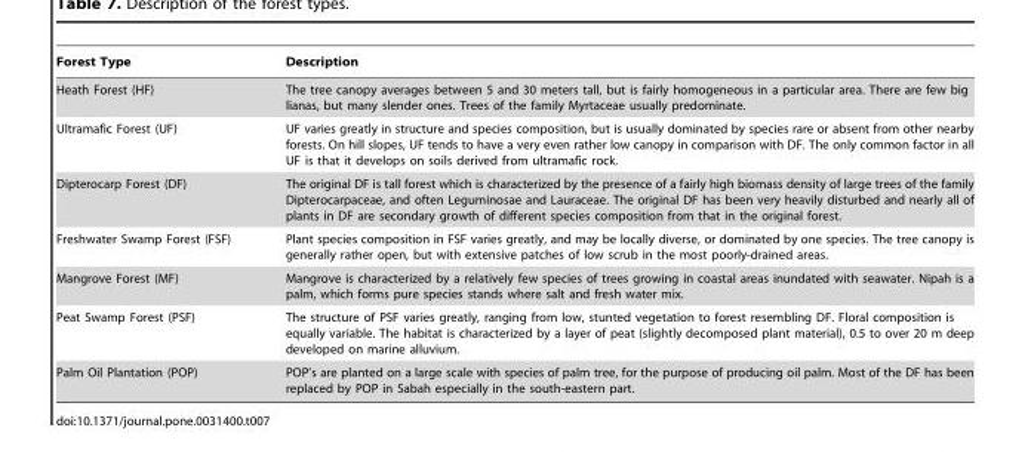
<table><thead><tr><td>Forest Type</td><td>Description</td></tr></thead><tbody><tr><td>Heath Forest (HF)</td><td>The tree canopy averages between 5 and 30 meters tall, but is fairly homogeneous in a particular area. There are few big lianas, but many slender ones. Trees of the family Myrtaceae usually predominate.</td></tr><tr><td>Ultramafic Forest (UF)</td><td>UF varies greatly in structure and species composition, but is usually dominated by species rare or absent from other nearby forests. On hill slopes, UF tends to have a very even rather low canopy in comparison with DF. The only common factor in all UF is that it develops on soils derived from ultramafic rock.</td></tr><tr><td>Dipterocarp Forest (DF)</td><td>The original DF is tall forest which is characterized by the presence of a fairly high biomass density of large trees of the family Dipterocarpaceae, and often Leguminosae and Lauraceae. The original DF has been very heavily disturbed and nearly all of plants in DF are secondary growth of different species composition from that in the original forest.</td></tr><tr><td>Freshwater Swamp Forest (FSF)</td><td>Plant species composition in FSF varies greatly, and may be locally diverse, or dominated by one species. The tree canopy is generally rather open, but with extensive patches of low scrub in the most poorly-drained areas.</td></tr><tr><td>Mangrove Forest (MF)</td><td>Mangrove is characterized by a relatively few species of trees growing in coastal areas inundated with seawater. Nipah is a palm, which forms pure species stands where salt and fresh water mix.</td></tr><tr><td>Peat Swamp Forest (PSF)</td><td>The structure of PSF varies greatly, ranging from low, stunted vegetation to forest resembling DF. Floral composition is equally variable. The habitat is characterized by a layer of peat (slightly decomposed plant material), 0.5 to over 20 m deep developed on marine alluvium.</td></tr><tr><td>Palm Oil Plantation (POP)</td><td>POP’s are planted on a large scale with species of palm tree, for the purpose of producing oil palm. Most of the DF has been replaced by POP in Sabah especially in the south-eastern part.</td></tr></tbody></table>